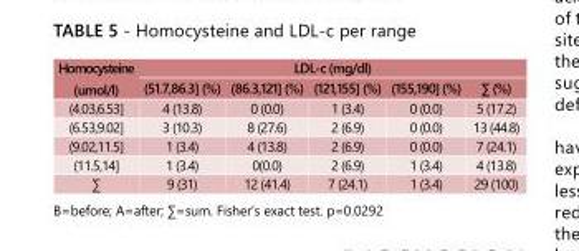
<table><tbody><tr><td rowspan="2">Homocysteine (umol/l)</td><td colspan="5">LDL-c (mg/dl)</td></tr><tr><td>(51.7,86.3] (%)</td><td>(86.3,121] (%)</td><td>(121,155] (%)</td><td>(155,190] (%)</td><td>∑ (%)</td></tr><tr><td>(4.03,6.53]</td><td>4 (13.8)</td><td>0 (0.0)</td><td>1 (3.4)</td><td>0 (0.0)</td><td>5 (17.2)</td></tr><tr><td>(6.53,9.02]</td><td>3 (10.3)</td><td>8 (27.6)</td><td>2 (6.9)</td><td>0 (0.0)</td><td>13 (44.8)</td></tr><tr><td>(9.02,11.5]</td><td>1 (3.4)</td><td>4 (13.8)</td><td>2 (6.9)</td><td>0 (0.0)</td><td>7 (24.1)</td></tr><tr><td>(11.5,14]</td><td>1 (3.4)</td><td>0(0.0)</td><td>2 (6.9)</td><td>1 (3.4)</td><td>4 (13.8)</td></tr><tr><td>∑</td><td>9 (31)</td><td>12 (41.4)</td><td>7 (24.1)</td><td>1 (3.4)</td><td>29 (100)</td></tr></tbody></table>